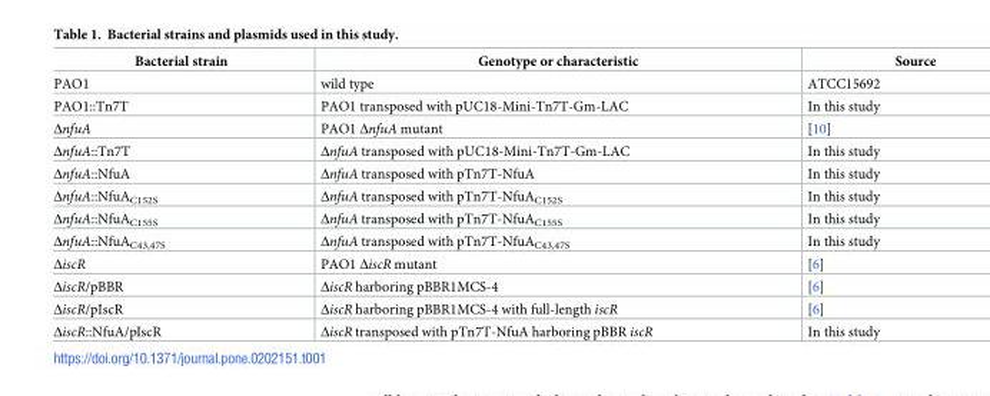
<table><thead><tr><td>Bacterial strain</td><td>Genotype or characteristic</td><td>Source</td></tr></thead><tbody><tr><td>PAO1</td><td>wild type</td><td>ATCC15692</td></tr><tr><td>PAO1::Tn7T</td><td>PAO1 transposed with pUC18-Mini-Tn7T-Gm-LAC</td><td>In this study</td></tr><tr><td>ΔnfuA</td><td>PAO1 ΔnfuA mutant</td><td>[10]</td></tr><tr><td>ΔnfuA::Tn7T</td><td>ΔnfuA transposed with pUC18-Mini-Tn7T-Gm-LAC</td><td>In this study</td></tr><tr><td>ΔnfuA::NfuA</td><td>ΔnfuA transposed with pTn7T-NfuA</td><td>In this study</td></tr><tr><td>ΔnfuA::NfuA<sub>C152S</sub></td><td>ΔnfuA transposed with pTn7T-NfuA<sub>C152S</sub></td><td>In this study</td></tr><tr><td>ΔnfuA::NfuA<sub>C155S</sub></td><td>ΔnfuA transposed with pTn7T-NfuA<sub>C155S</sub></td><td>In this study</td></tr><tr><td>ΔnfuA::NfuA<sub>C43,47S</sub></td><td>ΔnfuA transposed with pTn7T-NfuA<sub>C43,47S</sub></td><td>In this study</td></tr><tr><td>ΔiscR</td><td>PAO1 ΔiscR mutant</td><td>[6]</td></tr><tr><td>ΔiscR/pBBR</td><td>ΔiscR harboring pBBR1MCS-4</td><td>[6]</td></tr><tr><td>ΔiscR/pIscR</td><td>ΔiscR harboring pBBR1MCS-4 with full-length iscR</td><td>[6]</td></tr><tr><td>ΔiscR::NfuA/pIscR</td><td>ΔiscR transposed with pTn7T-NfuA harboring pBBR iscR</td><td>In this study</td></tr></tbody></table>